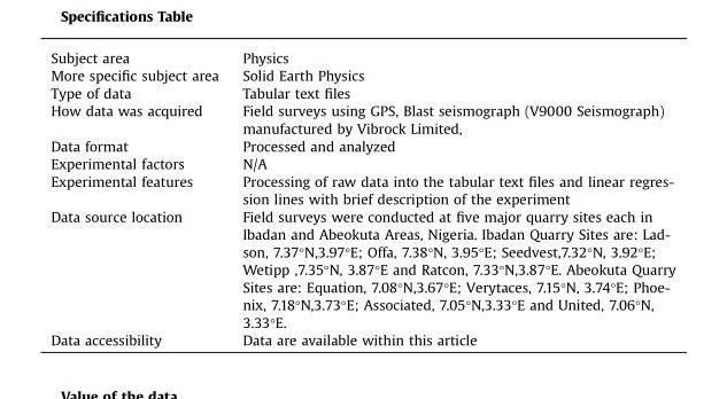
<table><tbody><tr><td>Subject area</td><td>Physics</td></tr><tr><td>More specific subject area</td><td>Solid Earth Physics</td></tr><tr><td>Type of data</td><td>Tabular text files</td></tr><tr><td>How data was acquired</td><td>Field surveys using GPS, Blast seismograph (V9000 Seismograph) manufactured by Vibrock Limited,</td></tr><tr><td>Data format</td><td>Processed and analyzed</td></tr><tr><td>Experimental factors</td><td>N/A</td></tr><tr><td>Experimental features</td><td>Processing of raw data into the tabular text files and linear regres- sion lines with brief description of the experiment</td></tr><tr><td>Data source location</td><td>Field surveys were conducted at five major quarry sites each in Ibadan and Abeokuta Areas, Nigeria. Ibadan Quarry Sites are: Lad- son, 7.37°N,3.97°E; Offa, 7.38°N, 3.95°E; Seedvest,7.32°N, 3.92°E; Wetipp ,7.35°N, 3.87°E and Ratcon, 7.33°N,3.87°E. Abeokuta Quarry Sites are: Equation, 7.08°N,3.67°E; Verytaces, 7.15°N, 3.74°E; Phoe- nix, 7.18°N,3.73°E; Associated, 7.05°N,3.33°E and United, 7.06°N, 3.33°E.</td></tr><tr><td>Data accessibility</td><td>Data are available within this article</td></tr></tbody></table>